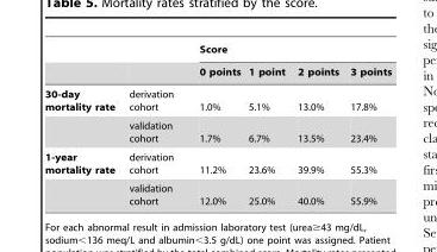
<table><thead><tr><td rowspan="2"></td><td rowspan="2"></td><td colspan="4">Score</td></tr><tr><td>0 points</td><td>1 point</td><td>2 points</td><td>3 points</td></tr></thead><tbody><tr><td rowspan="2">30-day mortality rate</td><td>derivation cohort</td><td>1.0%</td><td>5.1%</td><td>13.0%</td><td>17.8%</td></tr><tr><td>validation cohort</td><td>1.7%</td><td>6.7%</td><td>13.5%</td><td>23.4%</td></tr><tr><td rowspan="2">1-year mortality rate</td><td>derivation cohort</td><td>11.2%</td><td>23.6%</td><td>39.9%</td><td>55.3%</td></tr><tr><td>validation cohort</td><td>12.0%</td><td>25.0%</td><td>40.0%</td><td>55.9%</td></tr></tbody></table>